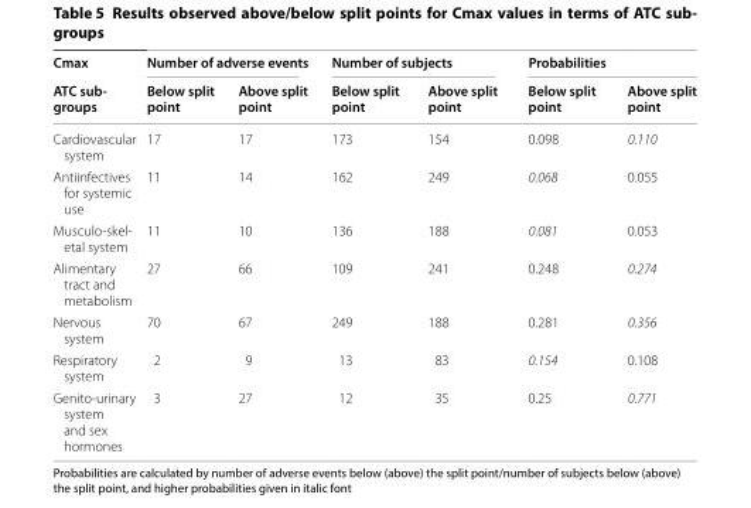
<table><thead><tr><td rowspan="2">Cmax ATC sub- groups</td><td colspan="2">Number of adverse events</td><td colspan="2">Number of subjects</td><td colspan="2">Probabilities</td></tr><tr><td>Below split point</td><td>Above split point</td><td>Below split point</td><td>Above split point</td><td>Below split point</td><td>Above split point</td></tr></thead><tbody><tr><td>Cardiovascular system</td><td>17</td><td>17</td><td>173</td><td>154</td><td>0.098</td><td>0.110</td></tr><tr><td>Antiinfectives for systemic use</td><td>11</td><td>14</td><td>162</td><td>249</td><td>0.068</td><td>0.055</td></tr><tr><td>Musculo-skel- etal system</td><td>11</td><td>10</td><td>136</td><td>188</td><td>0.081</td><td>0.053</td></tr><tr><td>Alimentary tract and metabolism</td><td>27</td><td>66</td><td>109</td><td>241</td><td>0.248</td><td>0.274</td></tr><tr><td>Nervous system</td><td>70</td><td>67</td><td>249</td><td>188</td><td>0.281</td><td>0.356</td></tr><tr><td>Respiratory system</td><td>2</td><td>9</td><td>13</td><td>83</td><td>0.154</td><td>0.108</td></tr><tr><td>Genito-urinary system and sex hormones</td><td>3</td><td>27</td><td>12</td><td>35</td><td>0.25</td><td>0.771</td></tr></tbody></table>